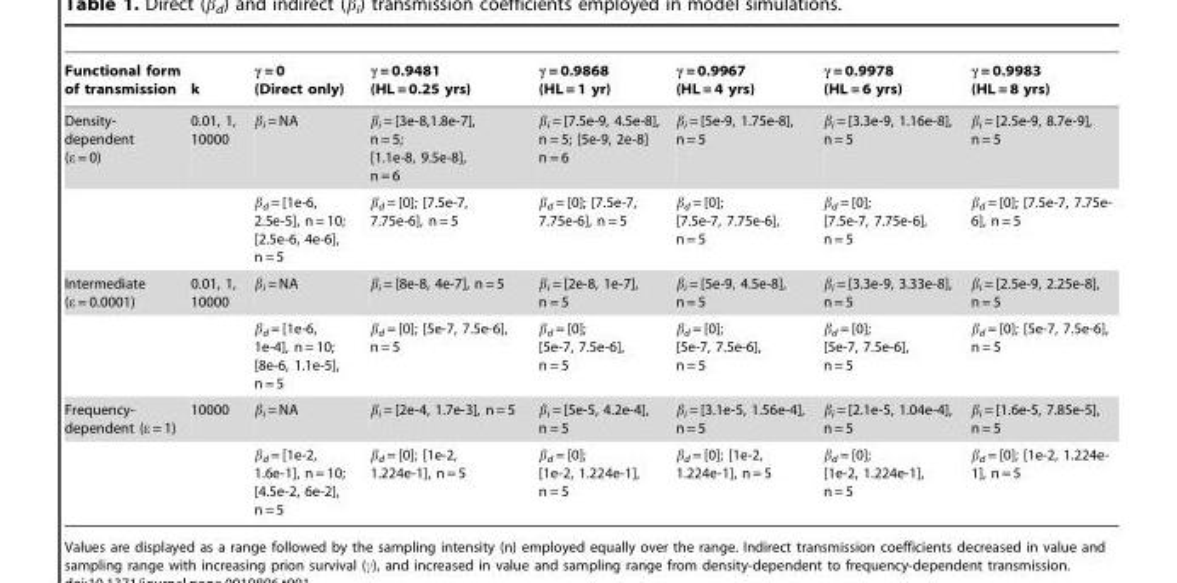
<table><thead><tr><td>Functional form of transmission</td><td>k</td><td>γ = 0 (Direct only)</td><td>γ = 0.9481 (HL = 0.25 yrs)</td><td>γ = 0.9868 (HL = 1 yr)</td><td>γ = 0.9967 (HL = 4 yrs)</td><td>γ = 0.9978 (HL = 6 yrs)</td><td>γ = 0.9983 (HL = 8 yrs)</td></tr></thead><tbody><tr><td rowspan="2">Density- dependent (ε = 0)</td><td>0.01, 1, 10000</td><td>β<sub>i</sub> = NA</td><td>β<sub>i</sub> = [3e-8,1.8e-7], n = 5; [1.1e-8, 9.5e-8], n = 6</td><td>β<sub>i</sub> = [7.5e-9, 4.5e-8], n = 5; [5e-9, 2e-8] n = 6</td><td>β<sub>i</sub> = [5e-9, 1.75e-8], n = 5</td><td>β<sub>i</sub> = [3.3e-9, 1.16e-8], n = 5</td><td>β<sub>i</sub> = [2.5e-9, 8.7e-9], n = 5</td></tr><tr><td></td><td>β<sub>d</sub> = [1e-6, 2.5e-5], n = 10; [2.5e-6, 4e-6], n = 5</td><td>β<sub>d</sub> = [0]; [7.5e-7, 7.75e-6], n = 5</td><td>β<sub>d</sub> = [0]; [7.5e-7, 7.75e-6], n = 5</td><td>β<sub>d</sub> = [0]; [7.5e-7, 7.75e-6], n = 5</td><td>β<sub>d</sub> = [0]; [7.5e-7, 7.75e-6], n = 5</td><td>β<sub>d</sub> = [0]; [7.5e-7, 7.75e- 6], n = 5</td></tr><tr><td rowspan="2">Intermediate (ε = 0.0001)</td><td>0.01, 1, 10000</td><td>β<sub>i</sub> = NA</td><td>β<sub>i</sub> = [8e-8, 4e-7], n = 5</td><td>β<sub>i</sub> = [2e-8, 1e-7], n = 5</td><td>β<sub>i</sub> = [5e-9, 4.5e-8], n = 5</td><td>β<sub>i</sub> = [3.3e-9, 3.33e-8], n = 5</td><td>β<sub>i</sub> = [2.5e-9, 2.25e-8], n = 5</td></tr><tr><td></td><td>β<sub>d</sub> = [1e-6, 1e-4], n = 10; [8e-6, 1.1e-5], n = 5</td><td>β<sub>d</sub> = [0]; [5e-7, 7.5e-6], n = 5</td><td>β<sub>d</sub> = [0]; [5e-7, 7.5e-6], n = 5</td><td>β<sub>d</sub> = [0]; [5e-7, 7.5e-6], n = 5</td><td>β<sub>d</sub> = [0]; [5e-7, 7.5e-6], n = 5</td><td>β<sub>d</sub> = [0]; [5e-7, 7.5e-6], n = 5</td></tr><tr><td rowspan="2">Frequency- dependent (ε = 1)</td><td>10000</td><td>β<sub>i</sub> = NA</td><td>β<sub>i</sub> = [2e-4, 1.7e-3], n = 5</td><td>β<sub>i</sub> = [5e-5, 4.2e-4], n = 5</td><td>β<sub>i</sub> = [3.1e-5, 1.56e-4], n = 5</td><td>β<sub>i</sub> = [2.1e-5, 1.04e-4], n = 5</td><td>β<sub>i</sub> = [1.6e-5, 7.85e-5], n = 5</td></tr><tr><td></td><td>β<sub>d</sub> = [1e-2, 1.6e-1], n = 10; [4.5e-2, 6e-2], n = 5</td><td>β<sub>d</sub> = [0]; [1e-2, 1.224e-1], n = 5</td><td>β<sub>d</sub> = [0]; [1e-2, 1.224e-1], n = 5</td><td>β<sub>d</sub> = [0]; [1e-2, 1.224e-1], n = 5</td><td>β<sub>d</sub> = [0]; [1e-2, 1.224e-1], n = 5</td><td>β<sub>d</sub> = [0]; [1e-2, 1.224e- 1], n = 5</td></tr></tbody></table>